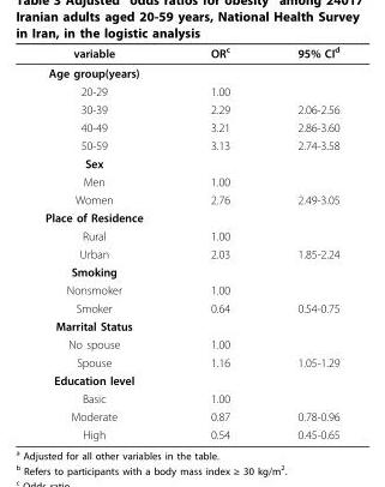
<table><thead><tr><td>variable</td><td>OR<sup>c</sup></td><td>95% CI<sup>d</sup></td></tr></thead><tbody><tr><td colspan="3">Age group(years)</td></tr><tr><td>20-29</td><td>1.00</td><td></td></tr><tr><td>30-39</td><td>2.29</td><td>2.06-2.56</td></tr><tr><td>40-49</td><td>3.21</td><td>2.86-3.60</td></tr><tr><td>50-59</td><td>3.13</td><td>2.74-3.58</td></tr><tr><td colspan="3">Sex</td></tr><tr><td>Men</td><td>1.00</td><td></td></tr><tr><td>Women</td><td>2.76</td><td>2.49-3.05</td></tr><tr><td colspan="3">Place of Residence</td></tr><tr><td>Rural</td><td>1.00</td><td></td></tr><tr><td>Urban</td><td>2.03</td><td>1.85-2.24</td></tr><tr><td colspan="3">Smoking</td></tr><tr><td>Nonsmoker</td><td>1.00</td><td></td></tr><tr><td>Smoker</td><td>0.64</td><td>0.54-0.75</td></tr><tr><td colspan="3">Marrital Status</td></tr><tr><td>No spouse</td><td>1.00</td><td></td></tr><tr><td>Spouse</td><td>1.16</td><td>1.05-1.29</td></tr><tr><td colspan="3">Education level</td></tr><tr><td>Basic</td><td>1.00</td><td></td></tr><tr><td>Moderate</td><td>0.87</td><td>0.78-0.96</td></tr><tr><td>High</td><td>0.54</td><td>0.45-0.65</td></tr></tbody></table>